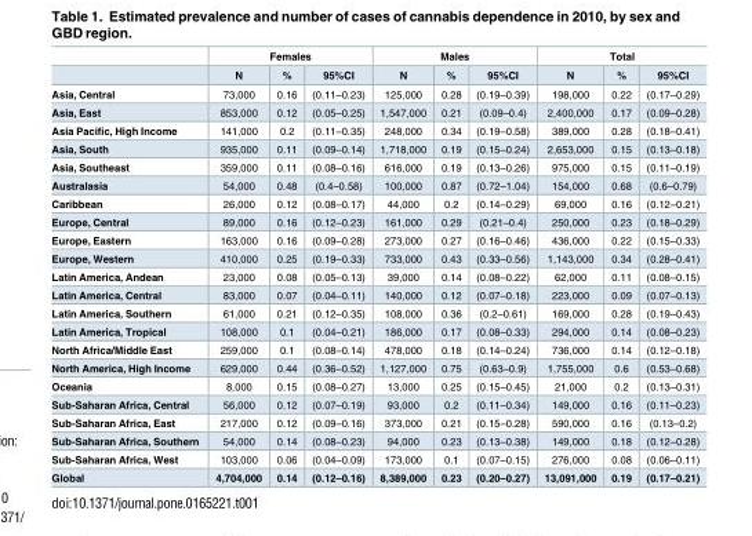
<table><thead><tr><td rowspan="2"></td><td colspan="3">Females</td><td colspan="3">Males</td><td colspan="3">Total</td></tr><tr><td>N</td><td>%</td><td>95%CI</td><td>N</td><td>%</td><td>95%CI</td><td>N</td><td>%</td><td>95%CI</td></tr></thead><tbody><tr><td>Asia, Central</td><td>73,000</td><td>0.16</td><td>(0.11–0.23)</td><td>125,000</td><td>0.28</td><td>(0.19–0.39)</td><td>198,000</td><td>0.22</td><td>(0.17–0.29)</td></tr><tr><td>Asia, East</td><td>853,000</td><td>0.12</td><td>(0.05–0.25)</td><td>1,547,000</td><td>0.21</td><td>(0.09–0.4)</td><td>2,400,000</td><td>0.17</td><td>(0.09–0.28)</td></tr><tr><td>Asia Pacific, High Income</td><td>141,000</td><td>0.2</td><td>(0.11–0.35)</td><td>248,000</td><td>0.34</td><td>(0.19–0.58)</td><td>389,000</td><td>0.28</td><td>(0.18–0.41)</td></tr><tr><td>Asia, South</td><td>935,000</td><td>0.11</td><td>(0.09–0.14)</td><td>1,718,000</td><td>0.19</td><td>(0.15–0.24)</td><td>2,653,000</td><td>0.15</td><td>(0.13–0.18)</td></tr><tr><td>Asia, Southeast</td><td>359,000</td><td>0.11</td><td>(0.08–0.16)</td><td>616,000</td><td>0.19</td><td>(0.13–0.26)</td><td>975,000</td><td>0.15</td><td>(0.11–0.19)</td></tr><tr><td>Australasia</td><td>54,000</td><td>0.48</td><td>(0.4–0.58)</td><td>100,000</td><td>0.87</td><td>(0.72–1.04)</td><td>154,000</td><td>0.68</td><td>(0.6–0.79)</td></tr><tr><td>Caribbean</td><td>26,000</td><td>0.12</td><td>(0.08–0.17)</td><td>44,000</td><td>0.2</td><td>(0.14–0.29)</td><td>69,000</td><td>0.16</td><td>(0.12–0.21)</td></tr><tr><td>Europe, Central</td><td>89,000</td><td>0.16</td><td>(0.12–0.23)</td><td>161,000</td><td>0.29</td><td>(0.21–0.4)</td><td>250,000</td><td>0.23</td><td>(0.18–0.29)</td></tr><tr><td>Europe, Eastern</td><td>163,000</td><td>0.16</td><td>(0.09–0.28)</td><td>273,000</td><td>0.27</td><td>(0.16–0.46)</td><td>436,000</td><td>0.22</td><td>(0.15–0.33)</td></tr><tr><td>Europe, Western</td><td>410,000</td><td>0.25</td><td>(0.19–0.33)</td><td>733,000</td><td>0.43</td><td>(0.33–0.56)</td><td>1,143,000</td><td>0.34</td><td>(0.28–0.41)</td></tr><tr><td>Latin America, Andean</td><td>23,000</td><td>0.08</td><td>(0.05–0.13)</td><td>39,000</td><td>0.14</td><td>(0.08–0.22)</td><td>62,000</td><td>0.11</td><td>(0.08–0.15)</td></tr><tr><td>Latin America, Central</td><td>83,000</td><td>0.07</td><td>(0.04–0.11)</td><td>140,000</td><td>0.12</td><td>(0.07–0.18)</td><td>223,000</td><td>0.09</td><td>(0.07–0.13)</td></tr><tr><td>Latin America, Southern</td><td>61,000</td><td>0.21</td><td>(0.12–0.35)</td><td>108,000</td><td>0.36</td><td>(0.2–0.61)</td><td>169,000</td><td>0.28</td><td>(0.19–0.43)</td></tr><tr><td>Latin America, Tropical</td><td>108,000</td><td>0.1</td><td>(0.04–0.21)</td><td>186,000</td><td>0.17</td><td>(0.08–0.33)</td><td>294,000</td><td>0.14</td><td>(0.08–0.23)</td></tr><tr><td>North Africa/Middle East</td><td>259,000</td><td>0.1</td><td>(0.08–0.14)</td><td>478,000</td><td>0.18</td><td>(0.14–0.24)</td><td>736,000</td><td>0.14</td><td>(0.12–0.18)</td></tr><tr><td>North America, High Income</td><td>629,000</td><td>0.44</td><td>(0.36–0.52)</td><td>1,127,000</td><td>0.75</td><td>(0.63–0.9)</td><td>1,755,000</td><td>0.6</td><td>(0.53–0.68)</td></tr><tr><td>Oceania</td><td>8,000</td><td>0.15</td><td>(0.08–0.27)</td><td>13,000</td><td>0.25</td><td>(0.15–0.45)</td><td>21,000</td><td>0.2</td><td>(0.13–0.31)</td></tr><tr><td>Sub-Saharan Africa, Central</td><td>56,000</td><td>0.12</td><td>(0.07–0.19)</td><td>93,000</td><td>0.2</td><td>(0.11–0.34)</td><td>149,000</td><td>0.16</td><td>(0.11–0.23)</td></tr><tr><td>Sub-Saharan Africa, East</td><td>217,000</td><td>0.12</td><td>(0.09–0.16)</td><td>373,000</td><td>0.21</td><td>(0.15–0.28)</td><td>590,000</td><td>0.16</td><td>(0.13–0.2)</td></tr><tr><td>Sub-Saharan Africa, Southern</td><td>54,000</td><td>0.14</td><td>(0.08–0.23)</td><td>94,000</td><td>0.23</td><td>(0.13–0.38)</td><td>149,000</td><td>0.18</td><td>(0.12–0.28)</td></tr><tr><td>Sub-Saharan Africa, West</td><td>103,000</td><td>0.06</td><td>(0.04–0.09)</td><td>173,000</td><td>0.1</td><td>(0.07–0.15)</td><td>276,000</td><td>0.08</td><td>(0.06–0.11)</td></tr><tr><td>Global</td><td>4,704,000</td><td>0.14</td><td>(0.12–0.16)</td><td>8,389,000</td><td>0.23</td><td>(0.20–0.27)</td><td>13,091,000</td><td>0.19</td><td>(0.17–0.21)</td></tr></tbody></table>